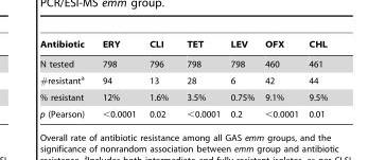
<table><thead><tr><td>Antibiotic</td><td>ERY</td><td>CLI</td><td>TET</td><td>LEV</td><td>OFX</td><td>CHL</td></tr></thead><tbody><tr><td>N tested</td><td>798</td><td>796</td><td>798</td><td>798</td><td>460</td><td>461</td></tr><tr><td>#resistant<sup>a</sup></td><td>94</td><td>13</td><td>28</td><td>6</td><td>42</td><td>44</td></tr><tr><td>% resistant</td><td>12%</td><td>1.6%</td><td>3.5%</td><td>0.75%</td><td>9.1%</td><td>9.5%</td></tr><tr><td>p (Pearson)</td><td>&lt;0.0001</td><td>0.02</td><td>&lt;0.0001</td><td>0.2</td><td>&lt;0.0001</td><td>0.01</td></tr></tbody></table>